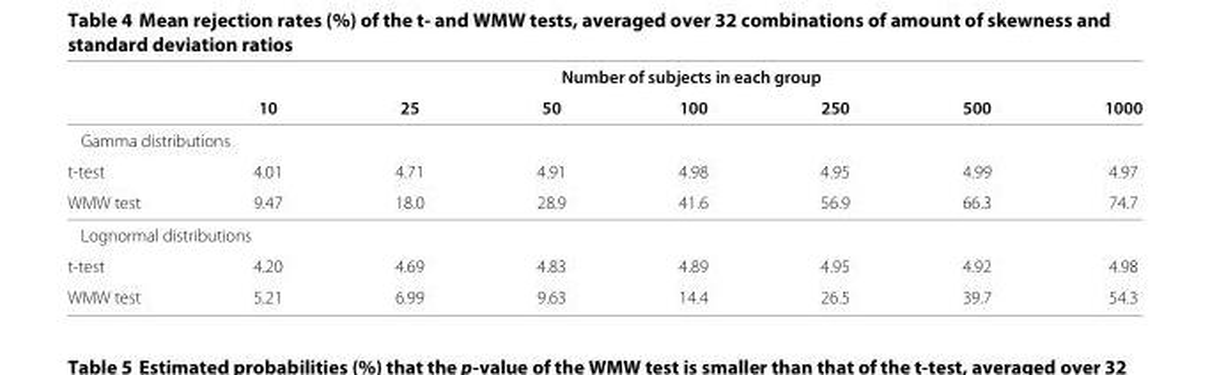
<table><thead><tr><td rowspan="2"></td><td colspan="7">Number of subjects in each group</td></tr><tr><td>10</td><td>25</td><td>50</td><td>100</td><td>250</td><td>500</td><td>1000</td></tr></thead><tbody><tr><td colspan="8">Gamma distributions</td></tr><tr><td>t-test</td><td>4.01</td><td>4.71</td><td>4.91</td><td>4.98</td><td>4.95</td><td>4.99</td><td>4.97</td></tr><tr><td>WMW test</td><td>9.47</td><td>18.0</td><td>28.9</td><td>41.6</td><td>56.9</td><td>66.3</td><td>74.7</td></tr><tr><td colspan="8">Lognormal distributions</td></tr><tr><td>t-test</td><td>4.20</td><td>4.69</td><td>4.83</td><td>4.89</td><td>4.95</td><td>4.92</td><td>4.98</td></tr><tr><td>WMW test</td><td>5.21</td><td>6.99</td><td>9.63</td><td>14.4</td><td>26.5</td><td>39.7</td><td>54.3</td></tr></tbody></table>